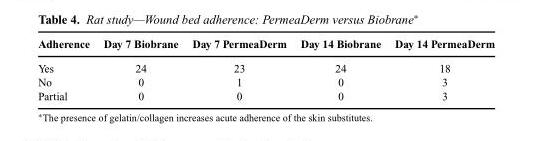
<table><thead><tr><td>Adherence</td><td>Day 7 Biobrane</td><td>Day 7 PermeaDerm</td><td>Day 14 Biobrane</td><td>Day 14 PermeaDerm</td></tr></thead><tbody><tr><td>Yes</td><td>24</td><td>23</td><td>24</td><td>18</td></tr><tr><td>No</td><td>0</td><td>1</td><td>0</td><td>3</td></tr><tr><td>Partial</td><td>0</td><td>0</td><td>0</td><td>3</td></tr></tbody></table>